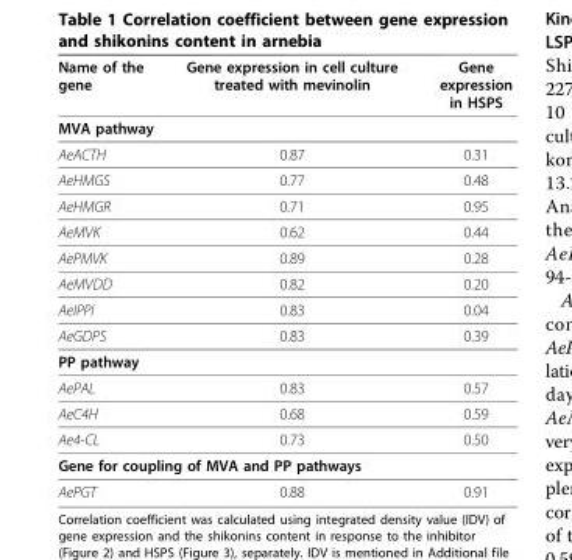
<table><thead><tr><td>Name of the gene</td><td>Gene expression in cell culture treated with mevinolin</td><td>Gene expression in HSPS</td></tr></thead><tbody><tr><td colspan="3">MVA pathway</td></tr><tr><td>AeACTH</td><td>0.87</td><td>0.31</td></tr><tr><td>AeHMGS</td><td>0.77</td><td>0.48</td></tr><tr><td>AeHMGR</td><td>0.71</td><td>0.95</td></tr><tr><td>AeMVK</td><td>0.62</td><td>0.44</td></tr><tr><td>AePMVK</td><td>0.89</td><td>0.28</td></tr><tr><td>AeMVDD</td><td>0.82</td><td>0.20</td></tr><tr><td>AeIPPI</td><td>0.83</td><td>0.04</td></tr><tr><td>AeGDPS</td><td>0.83</td><td>0.39</td></tr><tr><td colspan="3">PP pathway</td></tr><tr><td>AePAL</td><td>0.83</td><td>0.57</td></tr><tr><td>AeC4H</td><td>0.68</td><td>0.59</td></tr><tr><td>Ae4-CL</td><td>0.73</td><td>0.50</td></tr><tr><td colspan="3">Gene for coupling of MVA and PP pathways</td></tr><tr><td>AePGT</td><td>0.88</td><td>0.91</td></tr></tbody></table>